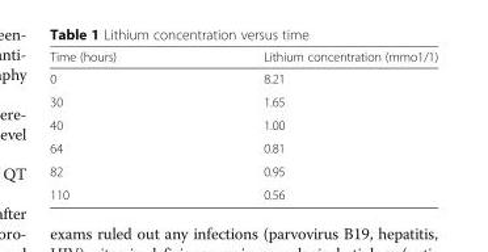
<table><thead><tr><td>Time (hours)</td><td>Lithium concentration (mmo1/1)</td></tr></thead><tbody><tr><td>0</td><td>8.21</td></tr><tr><td>30</td><td>1.65</td></tr><tr><td>40</td><td>1.00</td></tr><tr><td>64</td><td>0.81</td></tr><tr><td>82</td><td>0.95</td></tr><tr><td>110</td><td>0.56</td></tr></tbody></table>